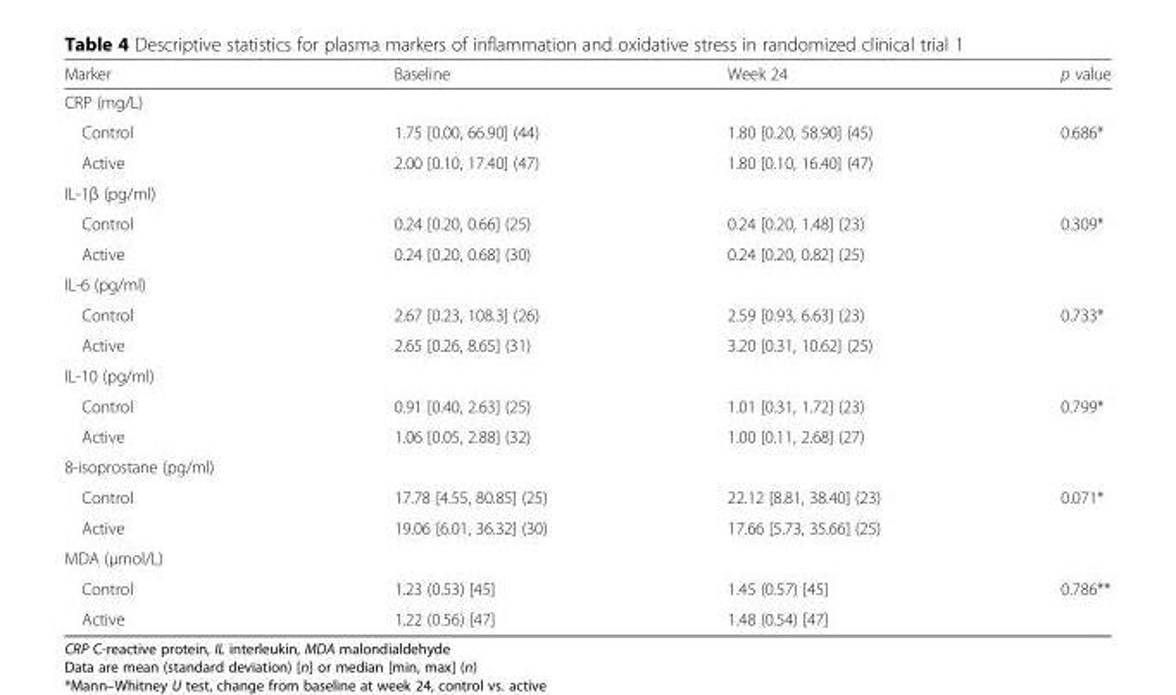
<table><thead><tr><td>Marker</td><td>Baseline</td><td>Week 24</td><td>p value</td></tr></thead><tbody><tr><td colspan="4">CRP (mg/L)</td></tr><tr><td>Control</td><td>1.75 [0.00, 66.90] (44)</td><td>1.80 [0.20, 58.90] (45)</td><td>0.686*</td></tr><tr><td>Active</td><td>2.00 [0.10, 17.40] (47)</td><td>1.80 [0.10, 16.40] (47)</td><td></td></tr><tr><td colspan="4">IL-1β (pg/ml)</td></tr><tr><td>Control</td><td>0.24 [0.20, 0.66] (25)</td><td>0.24 [0.20, 1.48] (23)</td><td>0.309*</td></tr><tr><td>Active</td><td>0.24 [0.20, 0.68] (30)</td><td>0.24 [0.20, 0.82] (25)</td><td></td></tr><tr><td colspan="4">IL-6 (pg/ml)</td></tr><tr><td>Control</td><td>2.67 [0.23, 108.3] (26)</td><td>2.59 [0.93, 6.63] (23)</td><td>0.733*</td></tr><tr><td>Active</td><td>2.65 [0.26, 8.65] (31)</td><td>3.20 [0.31, 10.62] (25)</td><td></td></tr><tr><td colspan="4">IL-10 (pg/ml)</td></tr><tr><td>Control</td><td>0.91 [0.40, 2.63] (25)</td><td>1.01 [0.31, 1.72] (23)</td><td>0.799*</td></tr><tr><td>Active</td><td>1.06 [0.05, 2.88] (32)</td><td>1.00 [0.11, 2.68] (27)</td><td></td></tr><tr><td colspan="4">8-isoprostane (pg/ml)</td></tr><tr><td>Control</td><td>17.78 [4.55, 80.85] (25)</td><td>22.12 [8.81, 38.40] (23)</td><td>0.071*</td></tr><tr><td>Active</td><td>19.06 [6.01, 36.32] (30)</td><td>17.66 [5.73, 35.66] (25)</td><td></td></tr><tr><td colspan="4">MDA (μmol/L)</td></tr><tr><td>Control</td><td>1.23 (0.53) [45]</td><td>1.45 (0.57) [45]</td><td>0.786**</td></tr><tr><td>Active</td><td>1.22 (0.56) [47]</td><td>1.48 (0.54) [47]</td><td></td></tr></tbody></table>